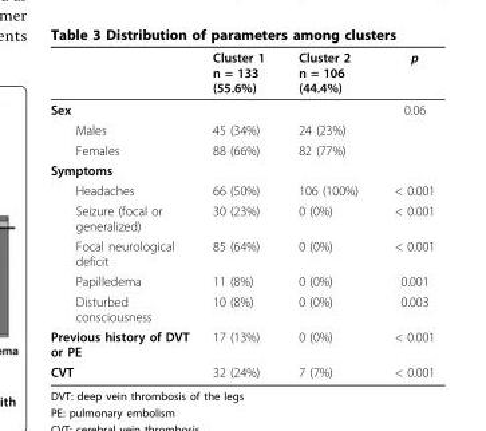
<table><thead><tr><td></td><td>Cluster 1 n = 133 (55.6%)</td><td>Cluster 2 n = 106 (44.4%)</td><td>p</td></tr></thead><tbody><tr><td>Sex</td><td></td><td></td><td>0.06</td></tr><tr><td>Males</td><td>45 (34%)</td><td>24 (23%)</td><td></td></tr><tr><td>Females</td><td>88 (66%)</td><td>82 (77%)</td><td></td></tr><tr><td colspan="4">Symptoms</td></tr><tr><td>Headaches</td><td>66 (50%)</td><td>106 (100%)</td><td>&lt; 0.001</td></tr><tr><td>Seizure (focal or generalized)</td><td>30 (23%)</td><td>0 (0%)</td><td>&lt; 0.001</td></tr><tr><td>Focal neurological deficit</td><td>85 (64%)</td><td>0 (0%)</td><td>&lt; 0.001</td></tr><tr><td>Papilledema</td><td>11 (8%)</td><td>0 (0%)</td><td>0.001</td></tr><tr><td>Disturbed consciousness</td><td>10 (8%)</td><td>0 (0%)</td><td>0.003</td></tr><tr><td>Previous history of DVT or PE</td><td>17 (13%)</td><td>0 (0%)</td><td>&lt; 0.001</td></tr><tr><td>CVT</td><td>32 (24%)</td><td>7 (7%)</td><td>&lt; 0.001</td></tr></tbody></table>